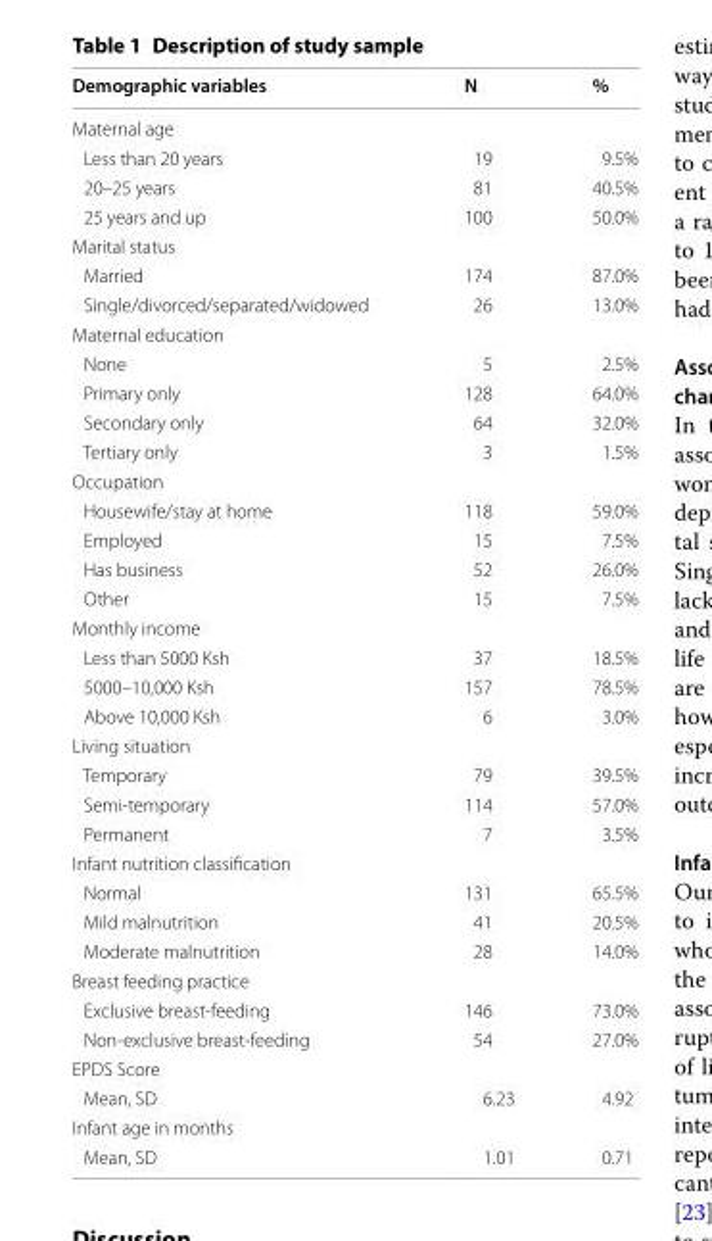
<table><thead><tr><td>Demographic variables</td><td>N</td><td>%</td></tr></thead><tbody><tr><td colspan="3">Maternal age</td></tr><tr><td>Less than 20 years</td><td>19</td><td>9.5%</td></tr><tr><td>20–25 years</td><td>81</td><td>40.5%</td></tr><tr><td>25 years and up</td><td>100</td><td>50.0%</td></tr><tr><td colspan="3">Marital status</td></tr><tr><td>Married</td><td>174</td><td>87.0%</td></tr><tr><td>Single/divorced/separated/widowed</td><td>26</td><td>13.0%</td></tr><tr><td colspan="3">Maternal education</td></tr><tr><td>None</td><td>5</td><td>2.5%</td></tr><tr><td>Primary only</td><td>128</td><td>64.0%</td></tr><tr><td>Secondary only</td><td>64</td><td>32.0%</td></tr><tr><td>Tertiary only</td><td>3</td><td>1.5%</td></tr><tr><td colspan="3">Occupation</td></tr><tr><td>Housewife/stay at home</td><td>118</td><td>59.0%</td></tr><tr><td>Employed</td><td>15</td><td>7.5%</td></tr><tr><td>Has business</td><td>52</td><td>26.0%</td></tr><tr><td>Other</td><td>15</td><td>7.5%</td></tr><tr><td colspan="3">Monthly income</td></tr><tr><td>Less than 5000 Ksh</td><td>37</td><td>18.5%</td></tr><tr><td>5000–10,000 Ksh</td><td>157</td><td>78.5%</td></tr><tr><td>Above 10,000 Ksh</td><td>6</td><td>3.0%</td></tr><tr><td colspan="3">Living situation</td></tr><tr><td>Temporary</td><td>79</td><td>39.5%</td></tr><tr><td>Semi-temporary</td><td>114</td><td>57.0%</td></tr><tr><td>Permanent</td><td>7</td><td>3.5%</td></tr><tr><td colspan="3">Infant nutrition classification</td></tr><tr><td>Normal</td><td>131</td><td>65.5%</td></tr><tr><td>Mild malnutrition</td><td>41</td><td>20.5%</td></tr><tr><td>Moderate malnutrition</td><td>28</td><td>14.0%</td></tr><tr><td colspan="3">Breast feeding practice</td></tr><tr><td>Exclusive breast-feeding</td><td>146</td><td>73.0%</td></tr><tr><td>Non-exclusive breast-feeding</td><td>54</td><td>27.0%</td></tr><tr><td colspan="3">EPDS Score</td></tr><tr><td>Mean, SD</td><td>6.23</td><td>4.92</td></tr><tr><td colspan="3">Infant age in months</td></tr><tr><td>Mean, SD</td><td>1.01</td><td>0.71</td></tr></tbody></table>